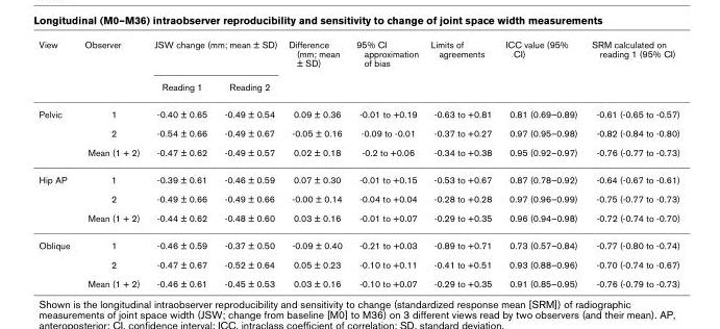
<table><thead><tr><td rowspan="2">View</td><td rowspan="2">Observer</td><td colspan="2">JSW change (mm; mean ± SD)</td><td rowspan="2">Difference (mm; mean ± SD)</td><td rowspan="2">95% CI approximation of bias</td><td rowspan="2">Limits of agreements</td><td rowspan="2">ICC value (95% CI)</td><td rowspan="2">SRM calculated on reading 1 (95% CI)</td></tr><tr><td>Reading 1</td><td>Reading 2</td></tr></thead><tbody><tr><td rowspan="3">Pelvic</td><td>1</td><td>-0.40 ± 0.65</td><td>-0.49 ± 0.54</td><td>0.09 ± 0.36</td><td>-0.01 to +0.19</td><td>-0.63 to +0.81</td><td>0.81 (0.69–0.89)</td><td>-0.61 (-0.65 to -0.57)</td></tr><tr><td>2</td><td>-0.54 ± 0.66</td><td>-0.49 ± 0.67</td><td>-0.05 ± 0.16</td><td>-0.09 to -0.01</td><td>-0.37 to +0.27</td><td>0.97 (0.95–0.98)</td><td>-0.82 (-0.84 to -0.80)</td></tr><tr><td>Mean (1 + 2)</td><td>-0.47 ± 0.62</td><td>-0.49 ± 0.57</td><td>0.02 ± 0.18</td><td>-0.2 to +0.06</td><td>-0.34 to +0.38</td><td>0.95 (0.92–0.97)</td><td>-0.76 (-0.77 to -0.73)</td></tr><tr><td rowspan="3">Hip AP</td><td>1</td><td>-0.39 ± 0.61</td><td>-0.46 ± 0.59</td><td>0.07 ± 0.30</td><td>-0.01 to +0.15</td><td>-0.53 to +0.67</td><td>0.87 (0.78–0.92)</td><td>-0.64 (-0.67 to -0.61)</td></tr><tr><td>2</td><td>-0.49 ± 0.66</td><td>-0.49 ± 0.66</td><td>-0.00 ± 0.14</td><td>-0.04 to +0.04</td><td>-0.28 to +0.28</td><td>0.97 (0.96–0.99)</td><td>-0.75 (-0.77 to -0.73)</td></tr><tr><td>Mean (1 + 2)</td><td>-0.44 ± 0.62</td><td>-0.48 ± 0.60</td><td>0.03 ± 0.16</td><td>-0.01 to +0.07</td><td>-0.29 to +0.35</td><td>0.96 (0.94–0.98)</td><td>-0.72 (-0.74 to -0.70)</td></tr><tr><td rowspan="3">Oblique</td><td>1</td><td>-0.46 ± 0.59</td><td>-0.37 ± 0.50</td><td>-0.09 ± 0.40</td><td>-0.21 to +0.03</td><td>-0.89 to +0.71</td><td>0.73 (0.57–0.84)</td><td>-0.77 (-0.80 to -0.74)</td></tr><tr><td>2</td><td>-0.47 ± 0.67</td><td>-0.52 ± 0.64</td><td>0.05 ± 0.23</td><td>-0.10 to +0.11</td><td>-0.41 to +0.51</td><td>0.93 (0.88–0.96)</td><td>-0.70 (-0.74 to -0.67)</td></tr><tr><td>Mean (1 + 2)</td><td>-0.46 ± 0.61</td><td>-0.45 ± 0.53</td><td>0.03 ± 0.16</td><td>-0.10 to +0.07</td><td>-0.29 to +0.35</td><td>0.91 (0.85–0.95)</td><td>-0.76 (-0.79 to -0.73)</td></tr></tbody></table>